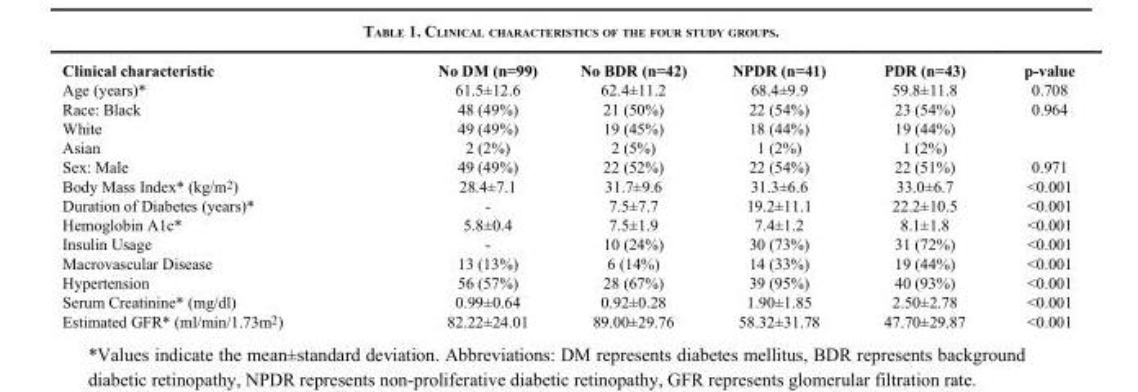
<table><thead><tr><td>Clinical characteristic</td><td>No DM (n=99)</td><td>No BDR (n=42)</td><td>NPDR (n=41)</td><td>PDR (n=43)</td><td>p-value</td></tr></thead><tbody><tr><td>Age (years)*</td><td>61.5±12.6</td><td>62.4±11.2</td><td>68.4±9.9</td><td>59.8±11.8</td><td>0.708</td></tr><tr><td>Race: Black</td><td>48 (49%)</td><td>21 (50%)</td><td>22 (54%)</td><td>23 (54%)</td><td>0.964</td></tr><tr><td>White</td><td>49 (49%)</td><td>19 (45%)</td><td>18 (44%)</td><td>19 (44%)</td><td></td></tr><tr><td>Asian</td><td>2 (2%)</td><td>2 (5%)</td><td>1 (2%)</td><td>1 (2%)</td><td></td></tr><tr><td>Sex: Male</td><td>49 (49%)</td><td>22 (52%)</td><td>22 (54%)</td><td>22 (51%)</td><td>0.971</td></tr><tr><td>Body Mass Index* (kg/m<sup>2</sup>)</td><td>28.4±7.1</td><td>31.7±9.6</td><td>31.3±6.6</td><td>33.0±6.7</td><td>&lt;0.001</td></tr><tr><td>Duration of Diabetes (years)*</td><td>-</td><td>7.5±7.7</td><td>19.2±11.1</td><td>22.2±10.5</td><td>&lt;0.001</td></tr><tr><td>Hemoglobin A1c*</td><td>5.8±0.4</td><td>7.5±1.9</td><td>7.4±1.2</td><td>8.1±1.8</td><td>&lt;0.001</td></tr><tr><td>Insulin Usage</td><td>-</td><td>10 (24%)</td><td>30 (73%)</td><td>31 (72%)</td><td>&lt;0.001</td></tr><tr><td>Macrovascular Disease</td><td>13 (13%)</td><td>6 (14%)</td><td>14 (33%)</td><td>19 (44%)</td><td>&lt;0.001</td></tr><tr><td>Hypertension</td><td>56 (57%)</td><td>28 (67%)</td><td>39 (95%)</td><td>40 (93%)</td><td>&lt;0.001</td></tr><tr><td>Serum Creatinine* (mg/dl)</td><td>0.99±0.64</td><td>0.92±0.28</td><td>1.90±1.85</td><td>2.50±2.78</td><td>&lt;0.001</td></tr><tr><td>Estimated GFR* (ml/min/1.73m<sup>2</sup>)</td><td>82.22±24.01</td><td>89.00±29.76</td><td>58.32±31.78</td><td>47.70±29.87</td><td>&lt;0.001</td></tr></tbody></table>